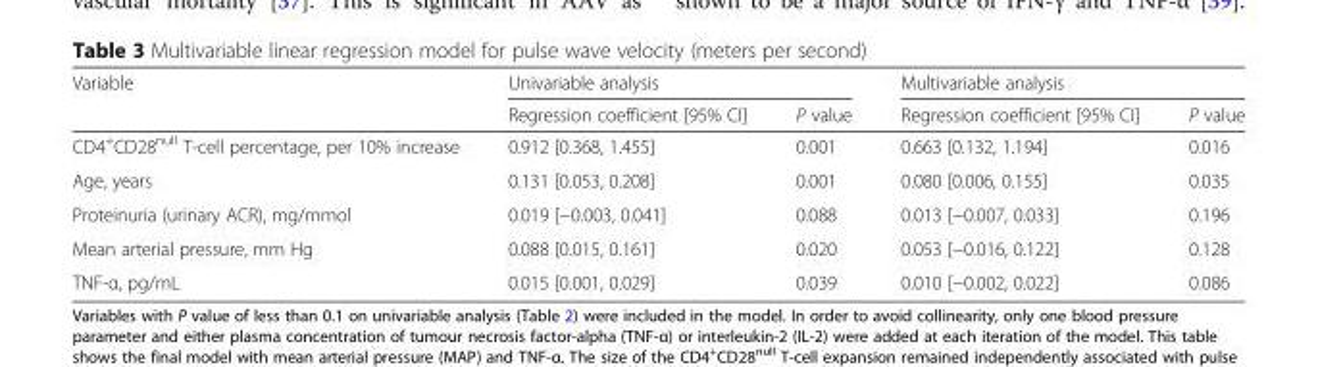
<table><thead><tr><td rowspan="2">Variable</td><td colspan="2">Univariable analysis</td><td colspan="2">Multivariable analysis</td></tr><tr><td>Regression coefficient [95% CI]</td><td>P value</td><td>Regression coefficient [95% CI]</td><td>P value</td></tr></thead><tbody><tr><td>CD4<sup>+</sup>CD28<sup>null</sup> T-cell percentage, per 10% increase</td><td>0.912 [0.368, 1.455]</td><td>0.001</td><td>0.663 [0.132, 1.194]</td><td>0.016</td></tr><tr><td>Age, years</td><td>0.131 [0.053, 0.208]</td><td>0.001</td><td>0.080 [0.006, 0.155]</td><td>0.035</td></tr><tr><td>Proteinuria (urinary ACR), mg/mmol</td><td>0.019 [−0.003, 0.041]</td><td>0.088</td><td>0.013 [−0.007, 0.033]</td><td>0.196</td></tr><tr><td>Mean arterial pressure, mm Hg</td><td>0.088 [0.015, 0.161]</td><td>0.020</td><td>0.053 [−0.016, 0.122]</td><td>0.128</td></tr><tr><td>TNF-α, pg/mL</td><td>0.015 [0.001, 0.029]</td><td>0.039</td><td>0.010 [−0.002, 0.022]</td><td>0.086</td></tr></tbody></table>